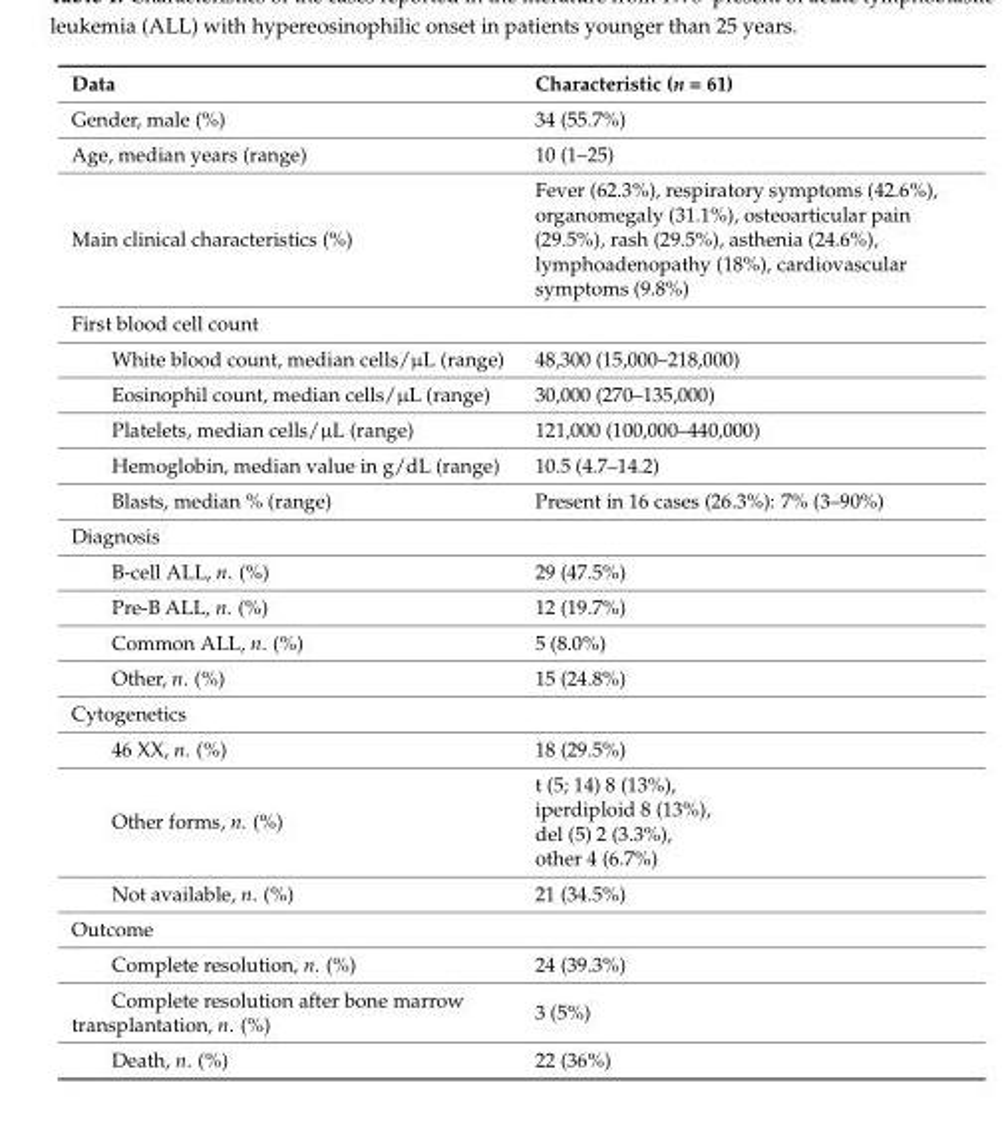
<table><thead><tr><td>Data</td><td>Characteristic (n = 61)</td></tr></thead><tbody><tr><td>Gender, male (%)</td><td>34 (55.7%)</td></tr><tr><td>Age, median years (range)</td><td>10 (1–25)</td></tr><tr><td>Main clinical characteristics (%)</td><td>Fever (62.3%), respiratory symptoms (42.6%), organomegaly (31.1%), osteoarticular pain (29.5%), rash (29.5%), asthenia (24.6%), lymphoadenopathy (18%), cardiovascular symptoms (9.8%)</td></tr><tr><td colspan="2">First blood cell count</td></tr><tr><td>White blood count, median cells/µL (range)</td><td>48,300 (15,000–218,000)</td></tr><tr><td>Eosinophil count, median cells/µL (range)</td><td>30,000 (270–135,000)</td></tr><tr><td>Platelets, median cells/µL (range)</td><td>121,000 (100,000–440,000)</td></tr><tr><td>Hemoglobin, median value in g/dL (range)</td><td>10.5 (4.7–14.2)</td></tr><tr><td>Blasts, median % (range)</td><td>Present in 16 cases (26.3%): 7% (3–90%)</td></tr><tr><td colspan="2">Diagnosis</td></tr><tr><td>B-cell ALL, n. (%)</td><td>29 (47.5%)</td></tr><tr><td>Pre-B ALL, n. (%)</td><td>12 (19.7%)</td></tr><tr><td>Common ALL, n. (%)</td><td>5 (8.0%)</td></tr><tr><td>Other, n. (%)</td><td>15 (24.8%)</td></tr><tr><td colspan="2">Cytogenetics</td></tr><tr><td>46 XX, n. (%)</td><td>18 (29.5%)</td></tr><tr><td>Other forms, n. (%)</td><td>t (5; 14) 8 (13%), iperdiploid 8 (13%), del (5) 2 (3.3%), other 4 (6.7%)</td></tr><tr><td>Not available, n. (%)</td><td>21 (34.5%)</td></tr><tr><td colspan="2">Outcome</td></tr><tr><td>Complete resolution, n. (%)</td><td>24 (39.3%)</td></tr><tr><td>Complete resolution after bone marrow transplantation, n. (%)</td><td>3 (5%)</td></tr><tr><td>Death, n. (%)</td><td>22 (36%)</td></tr></tbody></table>